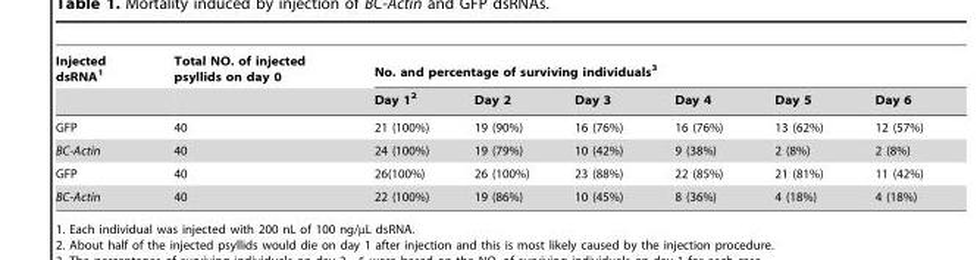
<table><thead><tr><td rowspan="2">Injected dsRNA<sup>1</sup></td><td rowspan="2">Total NO. of injected psyllids on day 0</td><td colspan="6">No. and percentage of surviving individuals<sup>3</sup></td></tr><tr><td>Day 1<sup>2</sup></td><td>Day 2</td><td>Day 3</td><td>Day 4</td><td>Day 5</td><td>Day 6</td></tr></thead><tbody><tr><td>GFP</td><td>40</td><td>21 (100%)</td><td>19 (90%)</td><td>16 (76%)</td><td>16 (76%)</td><td>13 (62%)</td><td>12 (57%)</td></tr><tr><td>BC-Actin</td><td>40</td><td>24 (100%)</td><td>19 (79%)</td><td>10 (42%)</td><td>9 (38%)</td><td>2 (8%)</td><td>2 (8%)</td></tr><tr><td>GFP</td><td>40</td><td>26(100%)</td><td>26 (100%)</td><td>23 (88%)</td><td>22 (85%)</td><td>21 (81%)</td><td>11 (42%)</td></tr><tr><td>BC-Actin</td><td>40</td><td>22 (100%)</td><td>19 (86%)</td><td>10 (45%)</td><td>8 (36%)</td><td>4 (18%)</td><td>4 (18%)</td></tr></tbody></table>